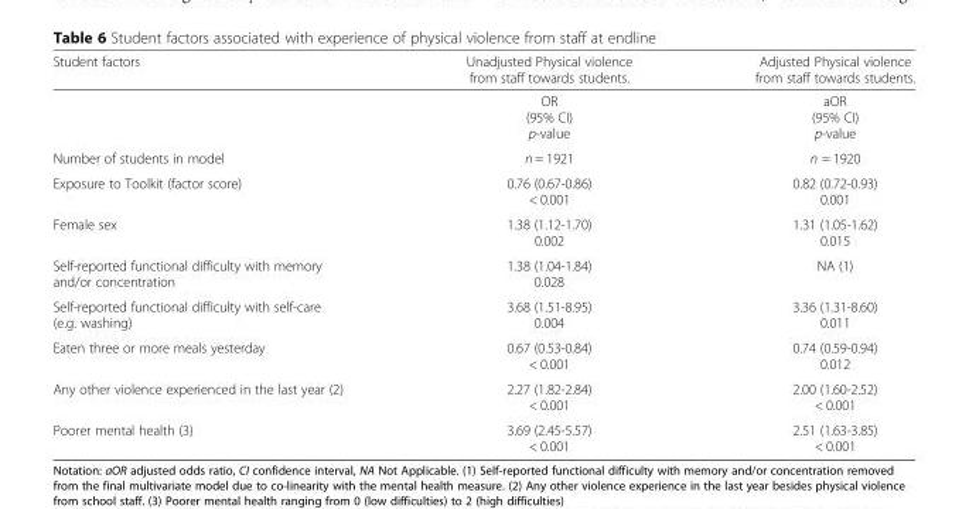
<table><thead><tr><td>Student factors</td><td>Unadjusted Physical violence from staff towards students.</td><td>Adjusted Physical violence from staff towards students.</td></tr></thead><tbody><tr><td></td><td>OR (95% CI) p-value</td><td>aOR (95% CI) p-value</td></tr><tr><td>Number of students in model</td><td>n = 1921</td><td>n = 1920</td></tr><tr><td>Exposure to Toolkit (factor score)</td><td>0.76 (0.67-0.86) &lt; 0.001</td><td>0.82 (0.72-0.93) 0.001</td></tr><tr><td>Female sex</td><td>1.38 (1.12-1.70) 0.002</td><td>1.31 (1.05-1.62) 0.015</td></tr><tr><td>Self-reported functional difficulty with memory and/or concentration</td><td>1.38 (1.04-1.84) 0.028</td><td>NA (1)</td></tr><tr><td>Self-reported functional difficulty with self-care (e.g. washing)</td><td>3.68 (1.51-8.95) 0.004</td><td>3.36 (1.31-8.60) 0.011</td></tr><tr><td>Eaten three or more meals yesterday</td><td>0.67 (0.53-0.84) &lt; 0.001</td><td>0.74 (0.59-0.94) 0.012</td></tr><tr><td>Any other violence experienced in the last year (2)</td><td>2.27 (1.82-2.84) &lt; 0.001</td><td>2.00 (1.60-2.52) &lt; 0.001</td></tr><tr><td>Poorer mental health (3)</td><td>3.69 (2.45-5.57) &lt; 0.001</td><td>2.51 (1.63-3.85) &lt; 0.001</td></tr></tbody></table>